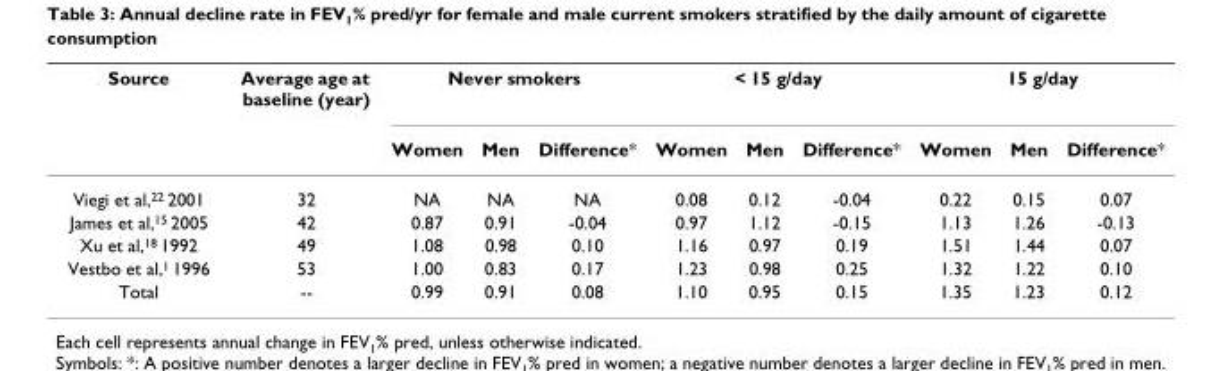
<table><thead><tr><td rowspan="2">Source</td><td rowspan="2">Average age at baseline (year)</td><td colspan="3">Never smokers</td><td colspan="3">&lt; 15 g/day</td><td colspan="3">15 g/day</td></tr><tr><td>Women</td><td>Men</td><td>Difference*</td><td>Women</td><td>Men</td><td>Difference*</td><td>Women</td><td>Men</td><td>Difference*</td></tr></thead><tbody><tr><td>Viegi et al,<sup>22</sup> 2001</td><td>32</td><td>NA</td><td>NA</td><td>NA</td><td>0.08</td><td>0.12</td><td>-0.04</td><td>0.22</td><td>0.15</td><td>0.07</td></tr><tr><td>James et al,<sup>15</sup> 2005</td><td>42</td><td>0.87</td><td>0.91</td><td>-0.04</td><td>0.97</td><td>1.12</td><td>-0.15</td><td>1.13</td><td>1.26</td><td>-0.13</td></tr><tr><td>Xu et al,<sup>18</sup> 1992</td><td>49</td><td>1.08</td><td>0.98</td><td>0.10</td><td>1.16</td><td>0.97</td><td>0.19</td><td>1.51</td><td>1.44</td><td>0.07</td></tr><tr><td>Vestbo et al,<sup>1</sup> 1996</td><td>53</td><td>1.00</td><td>0.83</td><td>0.17</td><td>1.23</td><td>0.98</td><td>0.25</td><td>1.32</td><td>1.22</td><td>0.10</td></tr><tr><td>Total</td><td>--</td><td>0.99</td><td>0.91</td><td>0.08</td><td>1.10</td><td>0.95</td><td>0.15</td><td>1.35</td><td>1.23</td><td>0.12</td></tr></tbody></table>